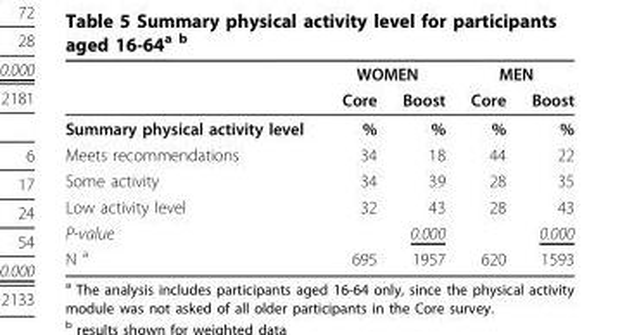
<table><thead><tr><td rowspan="2"></td><td colspan="2">WOMEN</td><td colspan="2">MEN</td></tr><tr><td>Core</td><td>Boost</td><td>Core</td><td>Boost</td></tr></thead><tbody><tr><td>Summary physical activity level</td><td>%</td><td>%</td><td>%</td><td>%</td></tr><tr><td>Meets recommendations</td><td>34</td><td>18</td><td>44</td><td>22</td></tr><tr><td>Some activity</td><td>34</td><td>39</td><td>28</td><td>35</td></tr><tr><td>Low activity level</td><td>32</td><td>43</td><td>28</td><td>43</td></tr><tr><td>P-value</td><td></td><td>0.000</td><td></td><td>0.000</td></tr><tr><td>N <sup>a</sup></td><td>695</td><td>1957</td><td>620</td><td>1593</td></tr></tbody></table>